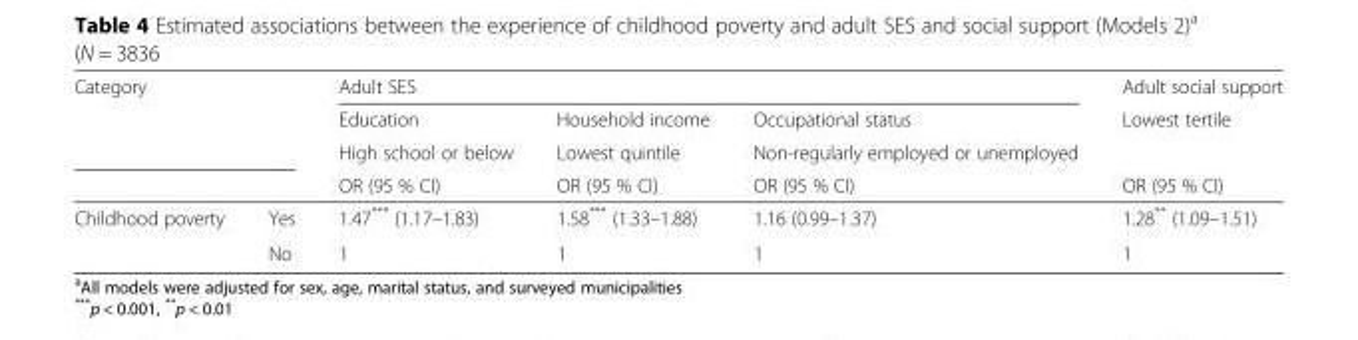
<table><thead><tr><td rowspan="3" colspan="2">Category</td><td colspan="3">Adult SES</td><td rowspan="4">Adult social support Lowest tertile OR (95 % CI)</td></tr><tr><td rowspan="3">Education High school or below OR (95 % CI)</td><td rowspan="3">Household income Lowest quintile OR (95 % CI)</td><td rowspan="3">Occupational status Non-regularly employed or unemployed OR (95 % CI)</td></tr><tr></tr><tr><td></td><td></td></tr></thead><tbody><tr><td rowspan="2">Childhood poverty</td><td>Yes</td><td>1.47*** (1.17–1.83)</td><td>1.58*** (1.33–1.88)</td><td>1.16 (0.99–1.37)</td><td>1.28** (1.09–1.51)</td></tr><tr><td>No</td><td>1</td><td>1</td><td>1</td><td>1</td></tr></tbody></table>